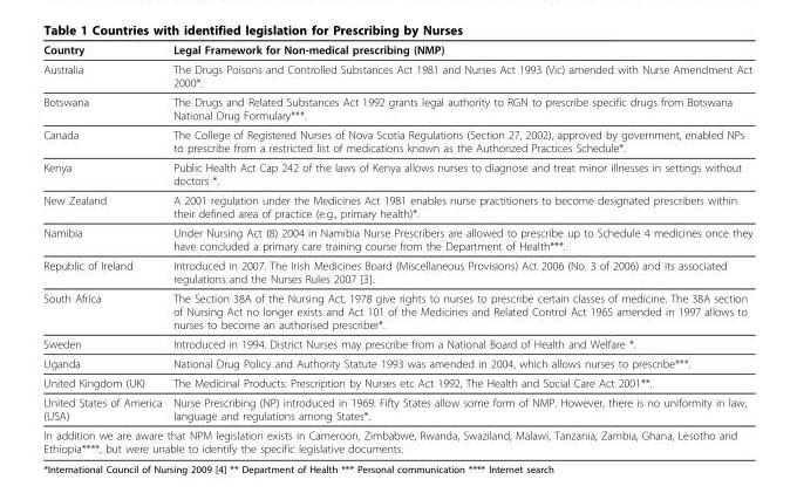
<table><thead><tr><td>Country</td><td>Legal Framework for Non-medical prescribing (NMP)</td></tr></thead><tbody><tr><td>Australia</td><td>The Drugs Poisons and Controlled Substances Act 1981 and Nurses Act 1993 (Vic) amended with Nurse Amendment Act 2000*.</td></tr><tr><td>Botswana</td><td>The Drugs and Related Substances Act 1992 grants legal authority to RGN to prescribe specific drugs from Botswana National Drug Formulary***.</td></tr><tr><td>Canada</td><td>The College of Registered Nurses of Nova Scotia Regulations (Section 27, 2002), approved by government, enabled NPs to prescribe from a restricted list of medications known as the Authorized Practices Schedule*.</td></tr><tr><td>Kenya</td><td>Public Health Act Cap 242 of the laws of Kenya allows nurses to diagnose and treat minor illnesses in settings without doctors *.</td></tr><tr><td>New Zealand</td><td>A 2001 regulation under the Medicines Act 1981 enables nurse practitioners to become designated prescribers within their defined area of practice (e.g., primary health)*.</td></tr><tr><td>Namibia</td><td>Under Nursing Act (8) 2004 in Namibia Nurse Prescribers are allowed to prescribe up to Schedule 4 medicines once they have concluded a primary care training course from the Department of Health***.</td></tr><tr><td>Republic of Ireland</td><td>Introduced in 2007. The Irish Medicines Board (Miscellaneous Provisions) Act 2006 (No. 3 of 2006) and its associated regulations and the Nurses Rules 2007 [3].</td></tr><tr><td>South Africa</td><td>The Section 38A of the Nursing Act, 1978 give rights to nurses to prescribe certain classes of medicine. The 38A section of Nursing Act no longer exists and Act 101 of the Medicines and Related Control Act 1965 amended in 1997 allows to nurses to become an authorised prescriber*.</td></tr><tr><td>Sweden</td><td>Introduced in 1994. District Nurses may prescribe from a National Board of Health and Welfare *.</td></tr><tr><td>Uganda</td><td>National Drug Policy and Authority Statute 1993 was amended in 2004, which allows nurses to prescribe***.</td></tr><tr><td>United Kingdom (UK)</td><td>The Medicinal Products: Prescription by Nurses etc Act 1992, The Health and Social Care Act 2001**.</td></tr><tr><td>United States of America (USA)</td><td>Nurse Prescribing (NP) introduced in 1969. Fifty States allow some form of NMP. However, there is no uniformity in law, language and regulations among States*.</td></tr><tr><td colspan="2">In addition we are aware that NPM legislation exists in Cameroon, Zimbabwe, Rwanda, Swaziland, Malawi, Tanzania, Zambia, Ghana, Lesotho and Ethiopia****, but were unable to identify the specific legislative documents.</td></tr></tbody></table>